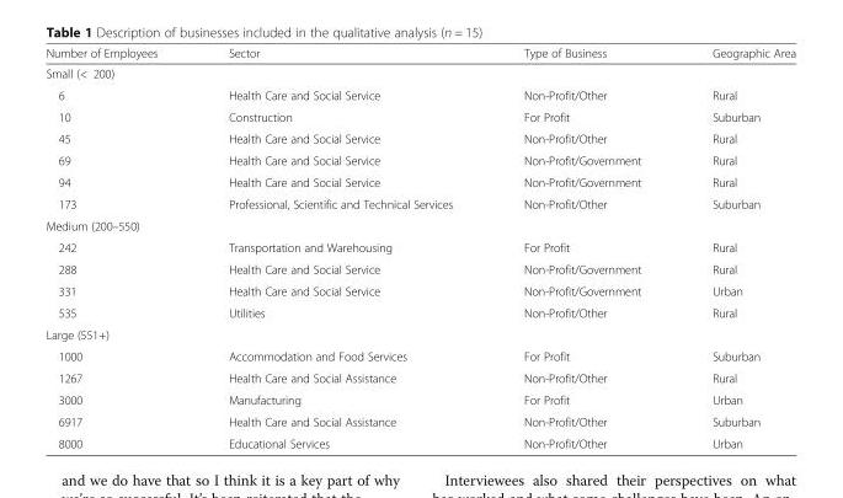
<table><thead><tr><td>Number of Employees</td><td>Sector</td><td>Type of Business</td><td>Geographic Area</td></tr></thead><tbody><tr><td colspan="4">Small (&lt; 200)</td></tr><tr><td>6</td><td>Health Care and Social Service</td><td>Non-Profit/Other</td><td>Rural</td></tr><tr><td>10</td><td>Construction</td><td>For Profit</td><td>Suburban</td></tr><tr><td>45</td><td>Health Care and Social Service</td><td>Non-Profit/Other</td><td>Rural</td></tr><tr><td>69</td><td>Health Care and Social Service</td><td>Non-Profit/Government</td><td>Rural</td></tr><tr><td>94</td><td>Health Care and Social Service</td><td>Non-Profit/Government</td><td>Rural</td></tr><tr><td>173</td><td>Professional, Scientific and Technical Services</td><td>Non-Profit/Other</td><td>Suburban</td></tr><tr><td colspan="4">Medium (200–550)</td></tr><tr><td>242</td><td>Transportation and Warehousing</td><td>For Profit</td><td>Rural</td></tr><tr><td>288</td><td>Health Care and Social Service</td><td>Non-Profit/Government</td><td>Rural</td></tr><tr><td>331</td><td>Health Care and Social Service</td><td>Non-Profit/Government</td><td>Urban</td></tr><tr><td>535</td><td>Utilities</td><td>Non-Profit/Other</td><td>Rural</td></tr><tr><td colspan="4">Large (551+)</td></tr><tr><td>1000</td><td>Accommodation and Food Services</td><td>For Profit</td><td>Suburban</td></tr><tr><td>1267</td><td>Health Care and Social Assistance</td><td>Non-Profit/Other</td><td>Rural</td></tr><tr><td>3000</td><td>Manufacturing</td><td>For Profit</td><td>Urban</td></tr><tr><td>6917</td><td>Health Care and Social Assistance</td><td>Non-Profit/Other</td><td>Suburban</td></tr><tr><td>8000</td><td>Educational Services</td><td>Non-Profit/Other</td><td>Urban</td></tr></tbody></table>